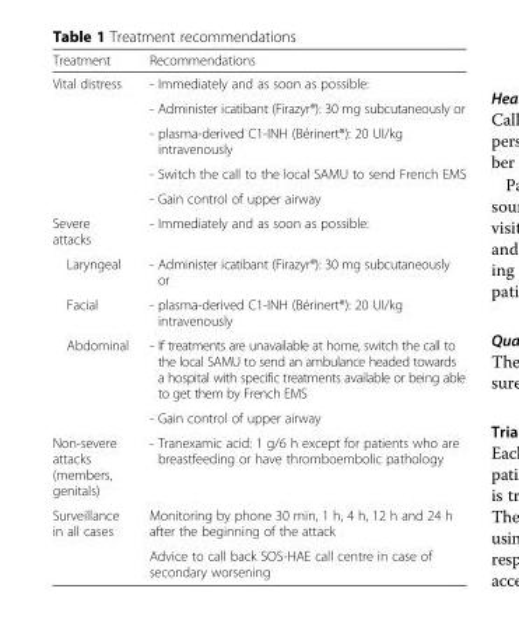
<table><thead><tr><td>Treatment</td><td>Recommendations</td></tr></thead><tbody><tr><td rowspan="5">Vital distress</td><td>- Immediately and as soon as possible:</td></tr><tr><td>- Administer icatibant (Firazyr®): 30 mg subcutaneously or</td></tr><tr><td>- plasma-derived C1-INH (Bérinert®): 20 UI/kg intravenously</td></tr><tr><td>- Switch the call to the local SAMU to send French EMS</td></tr><tr><td>- Gain control of upper airway</td></tr><tr><td>Severe attacks</td><td>- Immediately and as soon as possible:</td></tr><tr><td>Laryngeal</td><td>- Administer icatibant (Firazyr®): 30 mg subcutaneously or</td></tr><tr><td>Facial</td><td>- plasma-derived C1-INH (Bérinert®): 20 UI/kg intravenously</td></tr><tr><td rowspan="2">Abdominal</td><td>- If treatments are unavailable at home, switch the call to the local SAMU to send an ambulance headed towards a hospital with specific treatments available or being able to get them by French EMS</td></tr><tr><td>- Gain control of upper airway</td></tr><tr><td>Non-severe attacks (members, genitals)</td><td>- Tranexamic acid: 1 g/6 h except for patients who are breastfeeding or have thromboembolic pathology</td></tr><tr><td rowspan="2">Surveillance in all cases</td><td>Monitoring by phone 30 min, 1 h, 4 h, 12 h and 24 h after the beginning of the attack</td></tr><tr><td>Advice to call back SOS-HAE call centre in case of secondary worsening</td></tr></tbody></table>